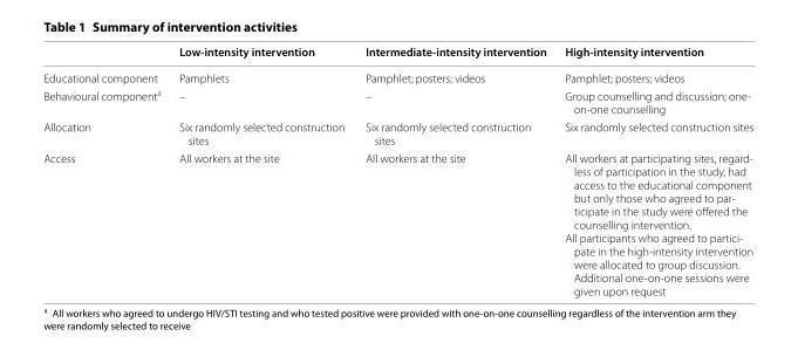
<table><thead><tr><td></td><td>Low-intensity intervention</td><td>Intermediate-intensity intervention</td><td>High-intensity intervention</td></tr></thead><tbody><tr><td>Educational component</td><td>Pamphlets</td><td>Pamphlet; posters; videos</td><td>Pamphlet; posters; videos</td></tr><tr><td>Behavioural component<sup>a</sup></td><td>–</td><td>–</td><td>Group counselling and discussion; one- on-one counselling</td></tr><tr><td>Allocation</td><td>Six randomly selected construction sites</td><td>Six randomly selected construction sites</td><td>Six randomly selected construction sites</td></tr><tr><td>Access</td><td>All workers at the site</td><td>All workers at the site</td><td>All workers at participating sites, regard- less of participation in the study, had access to the educational component but only those who agreed to par- ticipate in the study were offered the counselling intervention. All participants who agreed to partici- pate in the high-intensity intervention were allocated to group discussion. Additional one-on-one sessions were given upon request</td></tr></tbody></table>